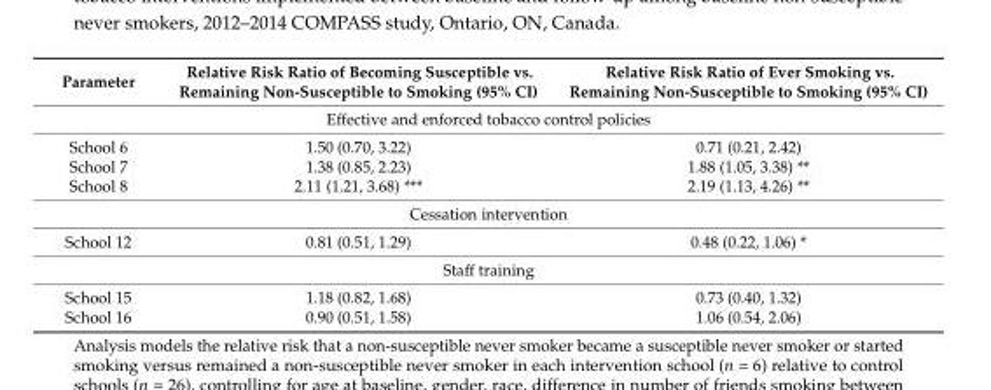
<table><thead><tr><td>Parameter</td><td>Relative Risk Ratio of Becoming Susceptible vs. Remaining Non-Susceptible to Smoking (95% CI)</td><td>Relative Risk Ratio of Ever Smoking vs. Remaining Non-Susceptible to Smoking (95% CI)</td></tr></thead><tbody><tr><td colspan="3">Effective and enforced tobacco control policies</td></tr><tr><td>School 6</td><td>1.50 (0.70, 3.22)</td><td>0.71 (0.21, 2.42)</td></tr><tr><td>School 7</td><td>1.38 (0.85, 2.23)</td><td>1.88 (1.05, 3.38) **</td></tr><tr><td>School 8</td><td>2.11 (1.21, 3.68) ***</td><td>2.19 (1.13, 4.26) **</td></tr><tr><td colspan="3">Cessation intervention</td></tr><tr><td>School 12</td><td>0.81 (0.51, 1.29)</td><td>0.48 (0.22, 1.06) *</td></tr><tr><td colspan="3">Staff training</td></tr><tr><td>School 15</td><td>1.18 (0.82, 1.68)</td><td>0.73 (0.40, 1.32)</td></tr><tr><td>School 16</td><td>0.90 (0.51, 1.58)</td><td>1.06 (0.54, 2.06)</td></tr></tbody></table>